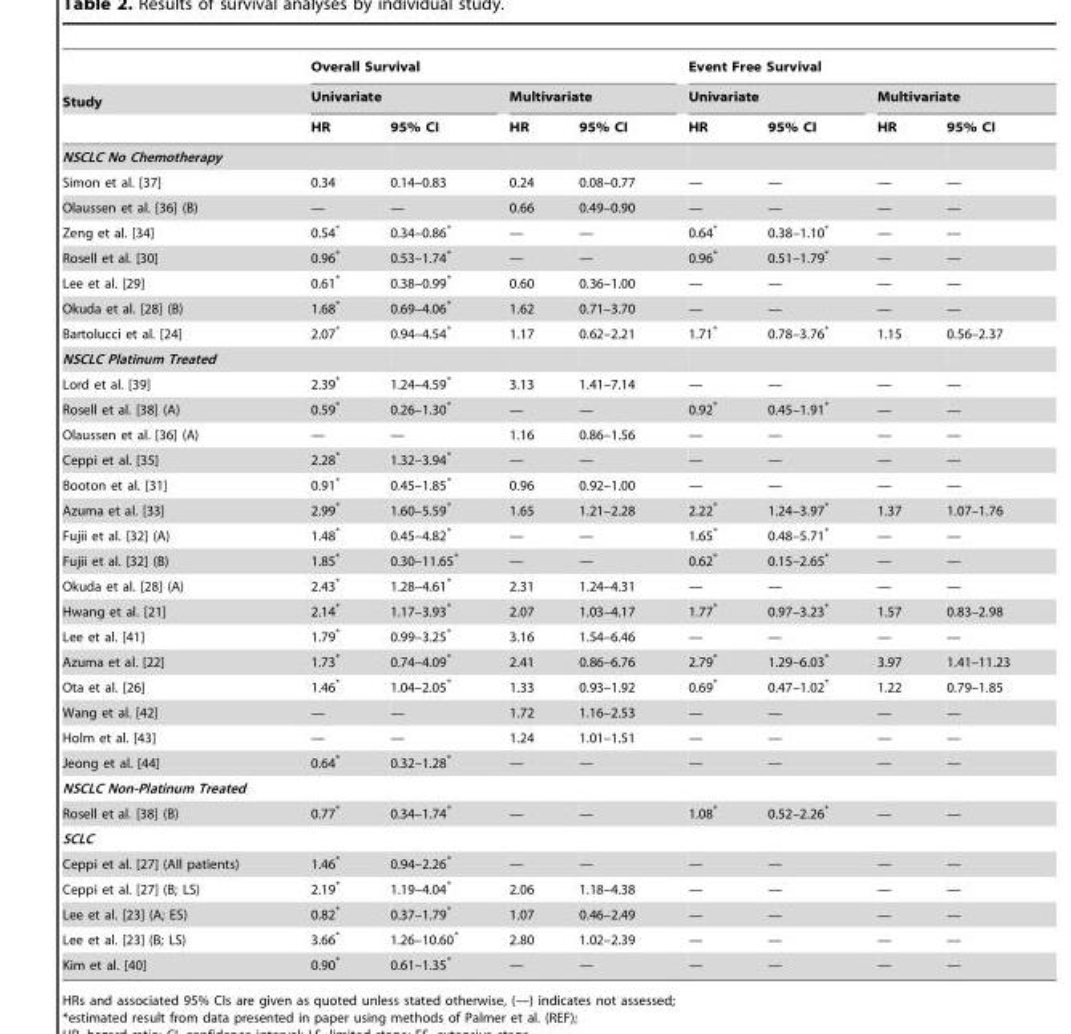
<table><thead><tr><td rowspan="3">Study</td><td colspan="4">Overall Survival</td><td colspan="4">Event Free Survival</td></tr><tr><td colspan="2">Univariate</td><td colspan="2">Multivariate</td><td colspan="2">Univariate</td><td colspan="2">Multivariate</td></tr><tr><td>HR</td><td>95% CI</td><td>HR</td><td>95% CI</td><td>HR</td><td>95% CI</td><td>HR</td><td>95% CI</td></tr></thead><tbody><tr><td colspan="9">NSCLC No Chemotherapy</td></tr><tr><td>Simon et al. [37]</td><td>0.34</td><td>0.14–0.83</td><td>0.24</td><td>0.08–0.77</td><td>—</td><td>—</td><td>—</td><td>—</td></tr><tr><td>Olaussen et al. [36] (B)</td><td>—</td><td>—</td><td>0.66</td><td>0.49–0.90</td><td>—</td><td>—</td><td>—</td><td>—</td></tr><tr><td>Zeng et al. [34]</td><td>0.54*</td><td>0.34–0.86*</td><td>—</td><td>—</td><td>0.64*</td><td>0.38–1.10*</td><td>—</td><td>—</td></tr><tr><td>Rosell et al. [30]</td><td>0.96*</td><td>0.53–1.74*</td><td>—</td><td>—</td><td>0.96*</td><td>0.51–1.79*</td><td>—</td><td>—</td></tr><tr><td>Lee et al. [29]</td><td>0.61*</td><td>0.38–0.99*</td><td>0.60</td><td>0.36–1.00</td><td>—</td><td>—</td><td>—</td><td>—</td></tr><tr><td>Okuda et al. [28] (B)</td><td>1.68*</td><td>0.69–4.06*</td><td>1.62</td><td>0.71–3.70</td><td>—</td><td>—</td><td>—</td><td>—</td></tr><tr><td>Bartolucci et al. [24]</td><td>2.07*</td><td>0.94–4.54*</td><td>1.17</td><td>0.62–2.21</td><td>1.71*</td><td>0.78–3.76*</td><td>1.15</td><td>0.56–2.37</td></tr><tr><td colspan="9">NSCLC Platinum Treated</td></tr><tr><td>Lord et al. [39]</td><td>2.39*</td><td>1.24–4.59*</td><td>3.13</td><td>1.41–7.14</td><td>—</td><td>—</td><td>—</td><td>—</td></tr><tr><td>Rosell et al. [38] (A)</td><td>0.59*</td><td>0.26–1.30*</td><td>—</td><td>—</td><td>0.92*</td><td>0.45–1.91*</td><td>—</td><td>—</td></tr><tr><td>Olaussen et al. [36] (A)</td><td>—</td><td>—</td><td>1.16</td><td>0.86–1.56</td><td>—</td><td>—</td><td>—</td><td>—</td></tr><tr><td>Ceppi et al. [35]</td><td>2.28*</td><td>1.32–3.94*</td><td>—</td><td>—</td><td>—</td><td>—</td><td>—</td><td>—</td></tr><tr><td>Booton et al. [31]</td><td>0.91*</td><td>0.45–1.85*</td><td>0.96</td><td>0.92–1.00</td><td>—</td><td>—</td><td>—</td><td>—</td></tr><tr><td>Azuma et al. [33]</td><td>2.99*</td><td>1.60–5.59*</td><td>1.65</td><td>1.21–2.28</td><td>2.22*</td><td>1.24–3.97*</td><td>1.37</td><td>1.07–1.76</td></tr><tr><td>Fujii et al. [32] (A)</td><td>1.48*</td><td>0.45–4.82*</td><td>—</td><td>—</td><td>1.65*</td><td>0.48–5.71*</td><td>—</td><td>—</td></tr><tr><td>Fujii et al. [32] (B)</td><td>1.85*</td><td>0.30–11.65*</td><td>—</td><td>—</td><td>0.62*</td><td>0.15–2.65*</td><td>—</td><td>—</td></tr><tr><td>Okuda et al. [28] (A)</td><td>2.43*</td><td>1.28–4.61*</td><td>2.31</td><td>1.24–4.31</td><td>—</td><td>—</td><td>—</td><td>—</td></tr><tr><td>Hwang et al. [21]</td><td>2.14*</td><td>1.17–3.93*</td><td>2.07</td><td>1.03–4.17</td><td>1.77*</td><td>0.97–3.23*</td><td>1.57</td><td>0.83–2.98</td></tr><tr><td>Lee et al. [41]</td><td>1.79*</td><td>0.99–3.25*</td><td>3.16</td><td>1.54–6.46</td><td>—</td><td>—</td><td>—</td><td>—</td></tr><tr><td>Azuma et al. [22]</td><td>1.73*</td><td>0.74–4.09*</td><td>2.41</td><td>0.86–6.76</td><td>2.79*</td><td>1.29–6.03*</td><td>3.97</td><td>1.41–11.23</td></tr><tr><td>Ota et al. [26]</td><td>1.46*</td><td>1.04–2.05*</td><td>1.33</td><td>0.93–1.92</td><td>0.69*</td><td>0.47–1.02*</td><td>1.22</td><td>0.79–1.85</td></tr><tr><td>Wang et al. [42]</td><td>—</td><td>—</td><td>1.72</td><td>1.16–2.53</td><td>—</td><td>—</td><td>—</td><td>—</td></tr><tr><td>Holm et al. [43]</td><td>—</td><td>—</td><td>1.24</td><td>1.01–1.51</td><td>—</td><td>—</td><td>—</td><td>—</td></tr><tr><td>Jeong et al. [44]</td><td>0.64*</td><td>0.32–1.28*</td><td>—</td><td>—</td><td>—</td><td>—</td><td>—</td><td>—</td></tr><tr><td colspan="9">NSCLC Non-Platinum Treated</td></tr><tr><td>Rosell et al. [38] (B)</td><td>0.77*</td><td>0.34–1.74*</td><td>—</td><td>—</td><td>1.08*</td><td>0.52–2.26*</td><td>—</td><td>—</td></tr><tr><td colspan="9">SCLC</td></tr><tr><td>Ceppi et al. [27] (All patients)</td><td>1.46*</td><td>0.94–2.26*</td><td>—</td><td>—</td><td>—</td><td>—</td><td>—</td><td>—</td></tr><tr><td>Ceppi et al. [27] (B; LS)</td><td>2.19*</td><td>1.19–4.04*</td><td>2.06</td><td>1.18–4.38</td><td>—</td><td>—</td><td>—</td><td>—</td></tr><tr><td>Lee et al. [23] (A; ES)</td><td>0.82*</td><td>0.37–1.79*</td><td>1.07</td><td>0.46–2.49</td><td>—</td><td>—</td><td>—</td><td>—</td></tr><tr><td>Lee et al. [23] (B; LS)</td><td>3.66*</td><td>1.26–10.60*</td><td>2.80</td><td>1.02–2.39</td><td>—</td><td>—</td><td>—</td><td>—</td></tr><tr><td>Kim et al. [40]</td><td>0.90*</td><td>0.61–1.35*</td><td>—</td><td>—</td><td>—</td><td>—</td><td>—</td><td>—</td></tr></tbody></table>